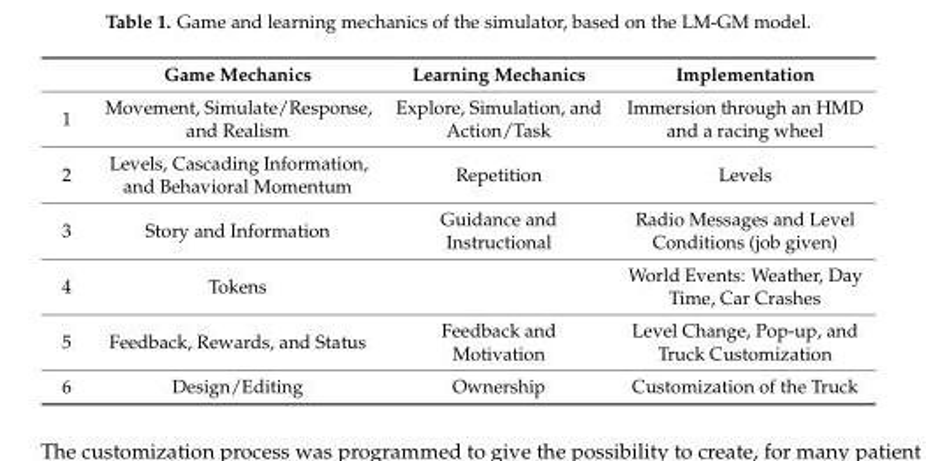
<table><thead><tr><td></td><td>Game Mechanics</td><td>Learning Mechanics</td><td>Implementation</td></tr></thead><tbody><tr><td>1</td><td>Movement, Simulate/Response, and Realism</td><td>Explore, Simulation, and Action/Task</td><td>Immersion through an HMD and a racing wheel</td></tr><tr><td>2</td><td>Levels, Cascading Information, and Behavioral Momentum</td><td>Repetition</td><td>Levels</td></tr><tr><td>3</td><td>Story and Information</td><td>Guidance and Instructional</td><td>Radio Messages and Level Conditions (job given)</td></tr><tr><td>4</td><td>Tokens</td><td></td><td>World Events: Weather, Day Time, Car Crashes</td></tr><tr><td>5</td><td>Feedback, Rewards, and Status</td><td>Feedback and Motivation</td><td>Level Change, Pop-up, and Truck Customization</td></tr><tr><td>6</td><td>Design/Editing</td><td>Ownership</td><td>Customization of the Truck</td></tr></tbody></table>